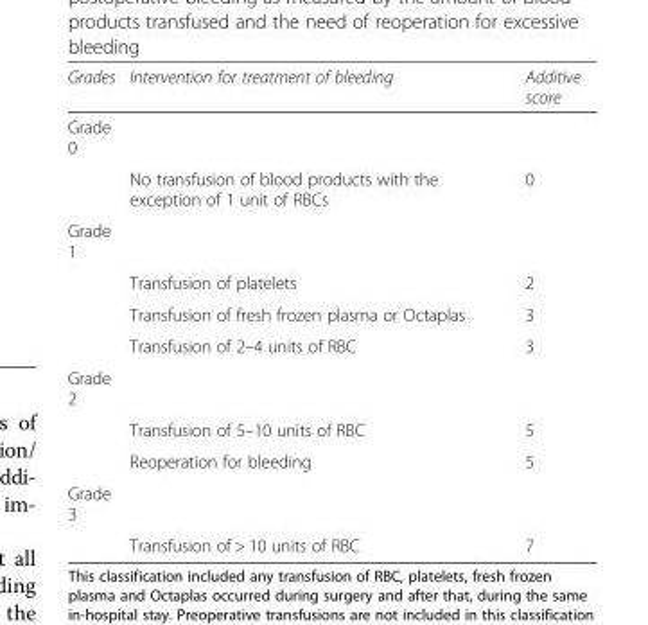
<table><thead><tr><td>Grades</td><td>Intervention for treatment of bleeding</td><td>Additive score</td></tr></thead><tbody><tr><td colspan="3">Grade 0</td></tr><tr><td></td><td>No transfusion of blood products with the exception of 1 unit of RBCs</td><td>0</td></tr><tr><td colspan="3">Grade 1</td></tr><tr><td></td><td>Transfusion of platelets</td><td>2</td></tr><tr><td></td><td>Transfusion of fresh frozen plasma or Octaplas</td><td>3</td></tr><tr><td></td><td>Transfusion of 2–4 units of RBC</td><td>3</td></tr><tr><td colspan="3">Grade 2</td></tr><tr><td></td><td>Transfusion of 5–10 units of RBC</td><td>5</td></tr><tr><td></td><td>Reoperation for bleeding</td><td>5</td></tr><tr><td colspan="3">Grade 3</td></tr><tr><td></td><td>Transfusion of &gt; 10 units of RBC</td><td>7</td></tr></tbody></table>